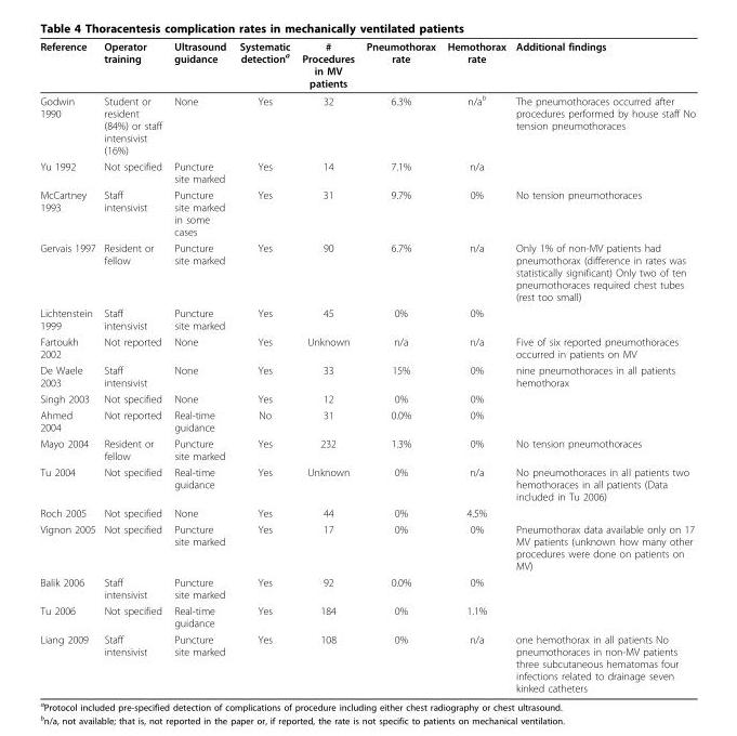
<table><thead><tr><td>Reference</td><td>Operator training</td><td>Ultrasound guidance</td><td>Systematic detection<sup>a</sup></td><td># Procedures in MV patients</td><td>Pneumothorax rate</td><td>Hemothorax rate</td><td>Additional findings</td></tr></thead><tbody><tr><td>Godwin 1990</td><td>Student or resident (84%) or staff intensivist (16%)</td><td>None</td><td>Yes</td><td>32</td><td>6.3%</td><td>n/a<sup>b</sup></td><td>The pneumothoraces occurred after procedures performed by house staff No tension pneumothoraces</td></tr><tr><td>Yu 1992</td><td>Not specified</td><td>Puncture site marked</td><td>Yes</td><td>14</td><td>7.1%</td><td>n/a</td><td></td></tr><tr><td>McCartney 1993</td><td>Staff intensivist</td><td>Puncture site marked in some cases</td><td>Yes</td><td>31</td><td>9.7%</td><td>0%</td><td>No tension pneumothoraces</td></tr><tr><td>Gervais 1997</td><td>Resident or fellow</td><td>Puncture site marked</td><td>Yes</td><td>90</td><td>6.7%</td><td>n/a</td><td>Only 1% of non-MV patients had pneumothorax (difference in rates was statistically significant) Only two of ten pneumothoraces required chest tubes (rest too small)</td></tr><tr><td>Lichtenstein 1999</td><td>Staff intensivist</td><td>Puncture site marked</td><td>Yes</td><td>45</td><td>0%</td><td>0%</td><td></td></tr><tr><td>Fartoukh 2002</td><td>Not reported</td><td>None</td><td>Yes</td><td>Unknown</td><td>n/a</td><td>n/a</td><td>Five of six reported pneumothoraces occurred in patients on MV</td></tr><tr><td>De Waele 2003</td><td>Staff intensivist</td><td>None</td><td>Yes</td><td>33</td><td>15%</td><td>0%</td><td>nine pneumothoraces in all patients hemothorax</td></tr><tr><td>Singh 2003</td><td>Not specified</td><td>None</td><td>Yes</td><td>12</td><td>0%</td><td>0%</td><td></td></tr><tr><td>Ahmed 2004</td><td>Not reported</td><td>Real-time guidance</td><td>No</td><td>31</td><td>0.0%</td><td>0%</td><td></td></tr><tr><td>Mayo 2004</td><td>Resident or fellow</td><td>Puncture site marked</td><td>Yes</td><td>232</td><td>1.3%</td><td>0%</td><td>No tension pneumothoraces</td></tr><tr><td>Tu 2004</td><td>Not specified</td><td>Real-time guidance</td><td>Yes</td><td>Unknown</td><td>0%</td><td>n/a</td><td>No pneumothoraces in all patients two hemothoraces in all patients (Data included in Tu 2006)</td></tr><tr><td>Roch 2005</td><td>Not specified</td><td>None</td><td>Yes</td><td>44</td><td>0%</td><td>4.5%</td><td></td></tr><tr><td>Vignon 2005</td><td>Not specified</td><td>Puncture site marked</td><td>Yes</td><td>17</td><td>0%</td><td>0%</td><td>Pneumothorax data available only on 17 MV patients (unknown how many other procedures were done on patients on MV)</td></tr><tr><td>Balik 2006</td><td>Staff intensivist</td><td>Puncture site marked</td><td>Yes</td><td>92</td><td>0.0%</td><td>0%</td><td></td></tr><tr><td>Tu 2006</td><td>Not specified</td><td>Real-time guidance</td><td>Yes</td><td>184</td><td>0%</td><td>1.1%</td><td></td></tr><tr><td>Liang 2009</td><td>Staff intensivist</td><td>Puncture site marked</td><td>Yes</td><td>108</td><td>0%</td><td>n/a</td><td>one hemothorax in all patients No pneumothoraces in non-MV patients three subcutaneous hematomas four infections related to drainage seven kinked catheters</td></tr></tbody></table>